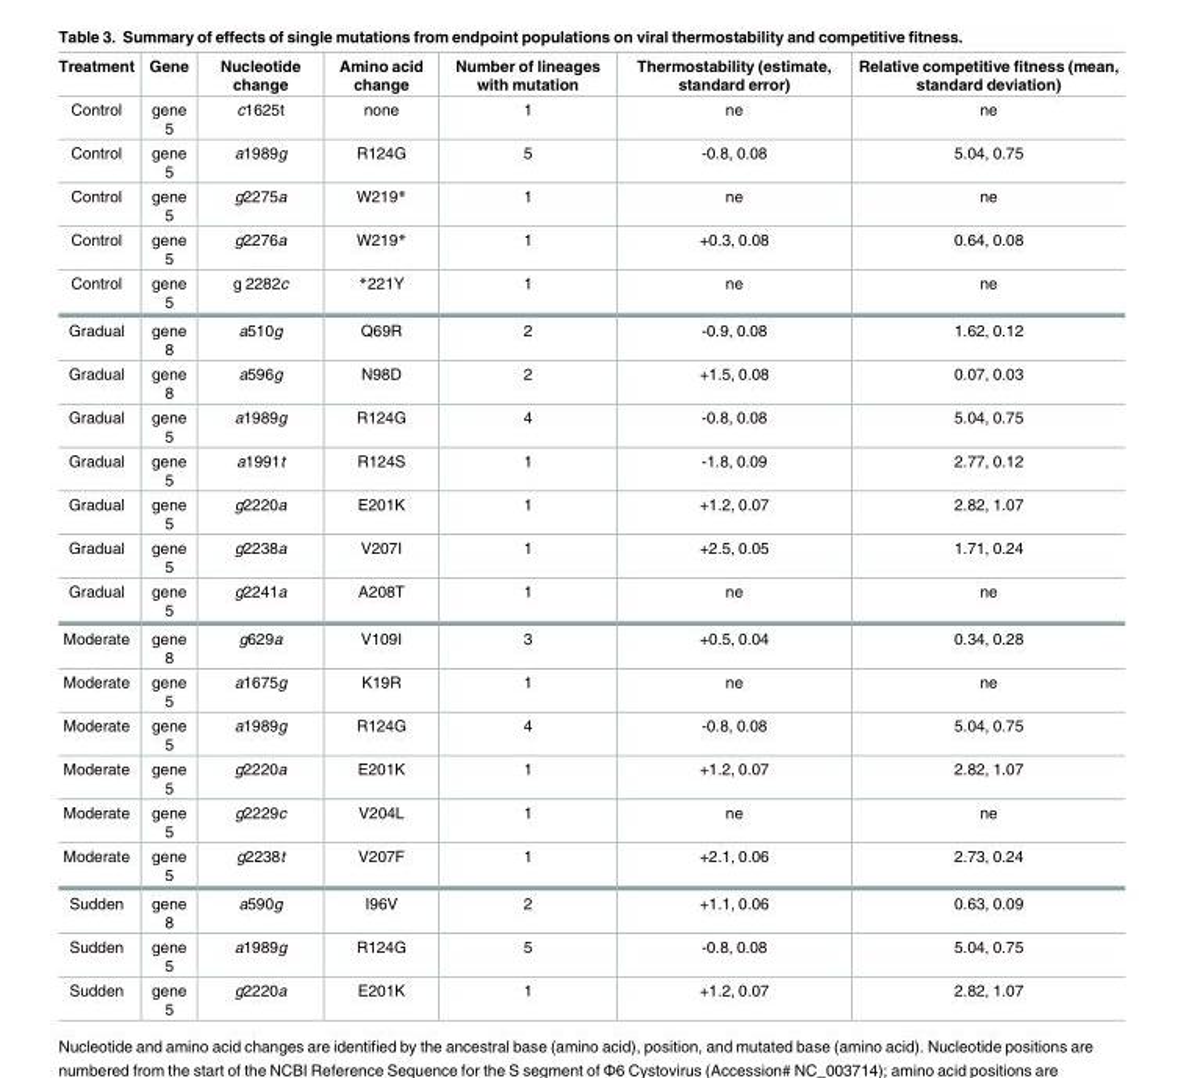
<table><thead><tr><td>Treatment</td><td>Gene</td><td>Nucleotide change</td><td>Amino acid change</td><td>Number of lineages with mutation</td><td>Thermostability (estimate, standard error)</td><td>Relative competitive fitness (mean, standard deviation)</td></tr></thead><tbody><tr><td>Control</td><td>gene 5</td><td>c1625t</td><td>none</td><td>1</td><td>ne</td><td>ne</td></tr><tr><td>Control</td><td>gene 5</td><td>a1989g</td><td>R124G</td><td>5</td><td>-0.8, 0.08</td><td>5.04, 0.75</td></tr><tr><td>Control</td><td>gene 5</td><td>g2275a</td><td>W219*</td><td>1</td><td>ne</td><td>ne</td></tr><tr><td>Control</td><td>gene 5</td><td>g2276a</td><td>W219*</td><td>1</td><td>+0.3, 0.08</td><td>0.64, 0.08</td></tr><tr><td>Control</td><td>gene 5</td><td>g 2282c</td><td>*221Y</td><td>1</td><td>ne</td><td>ne</td></tr><tr><td>Gradual</td><td>gene 8</td><td>a510g</td><td>Q69R</td><td>2</td><td>-0.9, 0.08</td><td>1.62, 0.12</td></tr><tr><td>Gradual</td><td>gene 8</td><td>a596g</td><td>N98D</td><td>2</td><td>+1.5, 0.08</td><td>0.07, 0.03</td></tr><tr><td>Gradual</td><td>gene 5</td><td>a1989g</td><td>R124G</td><td>4</td><td>-0.8, 0.08</td><td>5.04, 0.75</td></tr><tr><td>Gradual</td><td>gene 5</td><td>a1991t</td><td>R124S</td><td>1</td><td>-1.8, 0.09</td><td>2.77, 0.12</td></tr><tr><td>Gradual</td><td>gene 5</td><td>g2220a</td><td>E201K</td><td>1</td><td>+1.2, 0.07</td><td>2.82, 1.07</td></tr><tr><td>Gradual</td><td>gene 5</td><td>g2238a</td><td>V207I</td><td>1</td><td>+2.5, 0.05</td><td>1.71, 0.24</td></tr><tr><td>Gradual</td><td>gene 5</td><td>g2241a</td><td>A208T</td><td>1</td><td>ne</td><td>ne</td></tr><tr><td>Moderate</td><td>gene 8</td><td>g629a</td><td>V109I</td><td>3</td><td>+0.5, 0.04</td><td>0.34, 0.28</td></tr><tr><td>Moderate</td><td>gene 5</td><td>a1675g</td><td>K19R</td><td>1</td><td>ne</td><td>ne</td></tr><tr><td>Moderate</td><td>gene 5</td><td>a1989g</td><td>R124G</td><td>4</td><td>-0.8, 0.08</td><td>5.04, 0.75</td></tr><tr><td>Moderate</td><td>gene 5</td><td>g2220a</td><td>E201K</td><td>1</td><td>+1.2, 0.07</td><td>2.82, 1.07</td></tr><tr><td>Moderate</td><td>gene 5</td><td>g2229c</td><td>V204L</td><td>1</td><td>ne</td><td>ne</td></tr><tr><td>Moderate</td><td>gene 5</td><td>g2238t</td><td>V207F</td><td>1</td><td>+2.1, 0.06</td><td>2.73, 0.24</td></tr><tr><td>Sudden</td><td>gene 8</td><td>a590g</td><td>I96V</td><td>2</td><td>+1.1, 0.06</td><td>0.63, 0.09</td></tr><tr><td>Sudden</td><td>gene 5</td><td>a1989g</td><td>R124G</td><td>5</td><td>-0.8, 0.08</td><td>5.04, 0.75</td></tr><tr><td>Sudden</td><td>gene 5</td><td>g2220a</td><td>E201K</td><td>1</td><td>+1.2, 0.07</td><td>2.82, 1.07</td></tr></tbody></table>